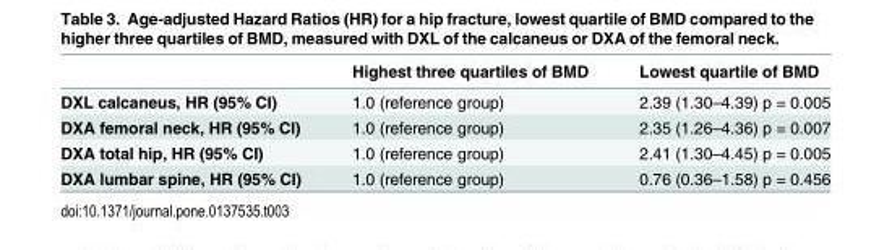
<table><thead><tr><td></td><td>Highest three quartiles of BMD</td><td>Lowest quartile of BMD</td></tr></thead><tbody><tr><td>DXL calcaneus, HR (95% CI)</td><td>1.0 (reference group)</td><td>2.39 (1.30–4.39) p = 0.005</td></tr><tr><td>DXA femoral neck, HR (95% CI)</td><td>1.0 (reference group)</td><td>2.35 (1.26–4.36) p = 0.007</td></tr><tr><td>DXA total hip, HR (95% CI)</td><td>1.0 (reference group)</td><td>2.41 (1.30–4.45) p = 0.005</td></tr><tr><td>DXA lumbar spine, HR (95% CI)</td><td>1.0 (reference group)</td><td>0.76 (0.36–1.58) p = 0.456</td></tr></tbody></table>